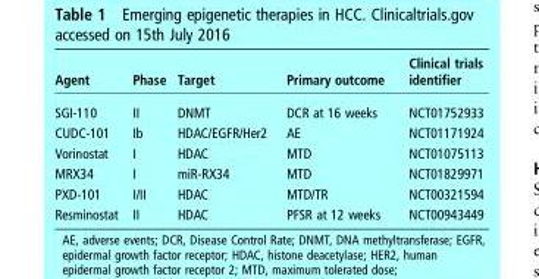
<table><thead><tr><td>Agent</td><td>Phase</td><td>Target</td><td>Primary outcome</td><td>Clinical trials identifier</td></tr></thead><tbody><tr><td>SGI-110</td><td>II</td><td>DNMT</td><td>DCR at 16 weeks</td><td>NCT01752933</td></tr><tr><td>CUDC-101</td><td>Ib</td><td>HDAC/EGFR/Her2</td><td>AE</td><td>NCT01171924</td></tr><tr><td>Vorinostat</td><td>I</td><td>HDAC</td><td>MTD</td><td>NCT01075113</td></tr><tr><td>MRX34</td><td>I</td><td>miR-RX34</td><td>MTD</td><td>NCT01829971</td></tr><tr><td>PXD-101</td><td>I/II</td><td>HDAC</td><td>MTD/TR</td><td>NCT00321594</td></tr><tr><td>Resminostat</td><td>II</td><td>HDAC</td><td>PFSR at 12 weeks</td><td>NCT00943449</td></tr></tbody></table>